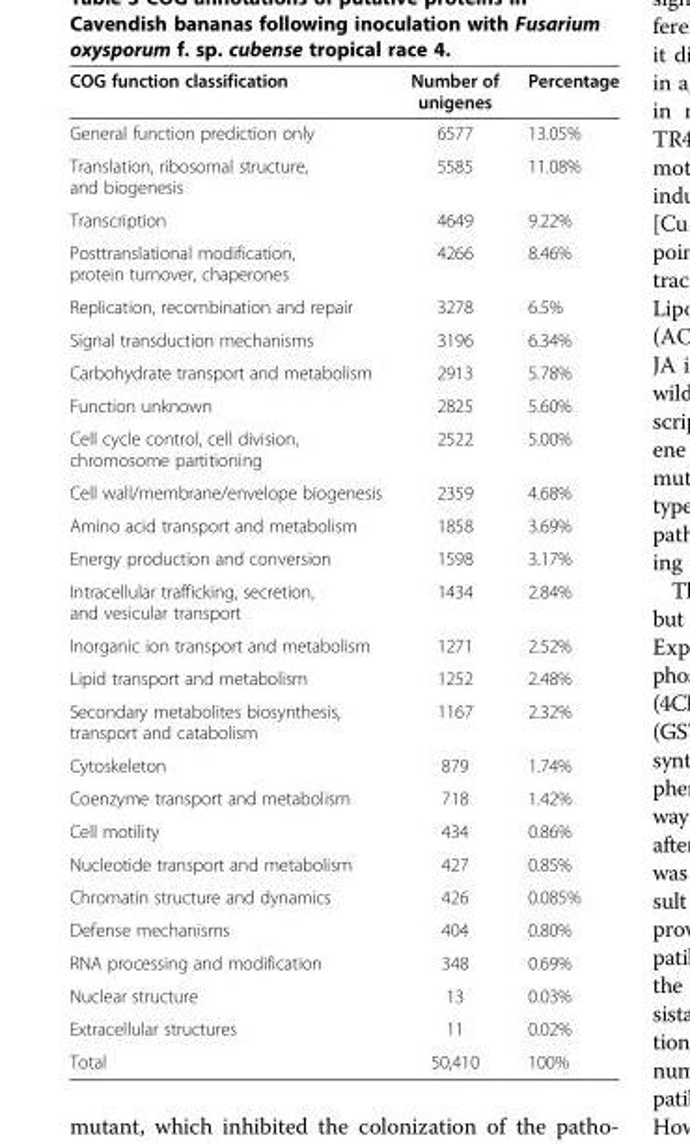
<table><thead><tr><td>COG function classification</td><td>Number of unigenes</td><td>Percentage</td></tr></thead><tbody><tr><td>General function prediction only</td><td>6577</td><td>13.05%</td></tr><tr><td>Translation, ribosomal structure, and biogenesis</td><td>5585</td><td>11.08%</td></tr><tr><td>Transcription</td><td>4649</td><td>9.22%</td></tr><tr><td>Posttranslational modification, protein turnover, chaperones</td><td>4266</td><td>8.46%</td></tr><tr><td>Replication, recombination and repair</td><td>3278</td><td>6.5%</td></tr><tr><td>Signal transduction mechanisms</td><td>3196</td><td>6.34%</td></tr><tr><td>Carbohydrate transport and metabolism</td><td>2913</td><td>5.78%</td></tr><tr><td>Function unknown</td><td>2825</td><td>5.60%</td></tr><tr><td>Cell cycle control, cell division, chromosome partitioning</td><td>2522</td><td>5.00%</td></tr><tr><td>Cell wall/membrane/envelope biogenesis</td><td>2359</td><td>4.68%</td></tr><tr><td>Amino acid transport and metabolism</td><td>1858</td><td>3.69%</td></tr><tr><td>Energy production and conversion</td><td>1598</td><td>3.17%</td></tr><tr><td>Intracellular trafficking, secretion, and vesicular transport</td><td>1434</td><td>2.84%</td></tr><tr><td>Inorganic ion transport and metabolism</td><td>1271</td><td>2.52%</td></tr><tr><td>Lipid transport and metabolism</td><td>1252</td><td>2.48%</td></tr><tr><td>Secondary metabolites biosynthesis, transport and catabolism</td><td>1167</td><td>2.32%</td></tr><tr><td>Cytoskeleton</td><td>879</td><td>1.74%</td></tr><tr><td>Coenzyme transport and metabolism</td><td>718</td><td>1.42%</td></tr><tr><td>Cell motility</td><td>434</td><td>0.86%</td></tr><tr><td>Nucleotide transport and metabolism</td><td>427</td><td>0.85%</td></tr><tr><td>Chromatin structure and dynamics</td><td>426</td><td>0.085%</td></tr><tr><td>Defense mechanisms</td><td>404</td><td>0.80%</td></tr><tr><td>RNA processing and modification</td><td>348</td><td>0.69%</td></tr><tr><td>Nuclear structure</td><td>13</td><td>0.03%</td></tr><tr><td>Extracellular structures</td><td>11</td><td>0.02%</td></tr><tr><td>Total</td><td>50,410</td><td>100%</td></tr></tbody></table>